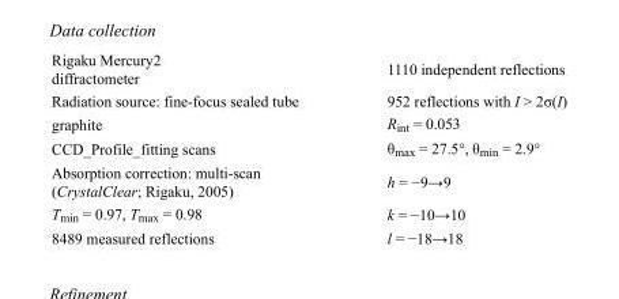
<table><tbody><tr><td>Rigaku Mercury2 diffractometer</td><td>1110 independent reflections</td></tr><tr><td>Radiation source: fine-focus sealed tube</td><td>952 reflections with I &gt; 2σ(I)</td></tr><tr><td>graphite</td><td>R<sub>int</sub> = 0.053</td></tr><tr><td>CCD_Profile_fitting scans</td><td>θ<sub>max</sub> = 27.5°, θ<sub>min</sub> = 2.9°</td></tr><tr><td>Absorption correction: multi-scan (CrystalClear; Rigaku, 2005)</td><td>h = −9→9</td></tr><tr><td>T<sub>min</sub> = 0.97, T<sub>max</sub> = 0.98</td><td>k = −10→10</td></tr><tr><td>8489 measured reflections</td><td>l = −18→18</td></tr></tbody></table>